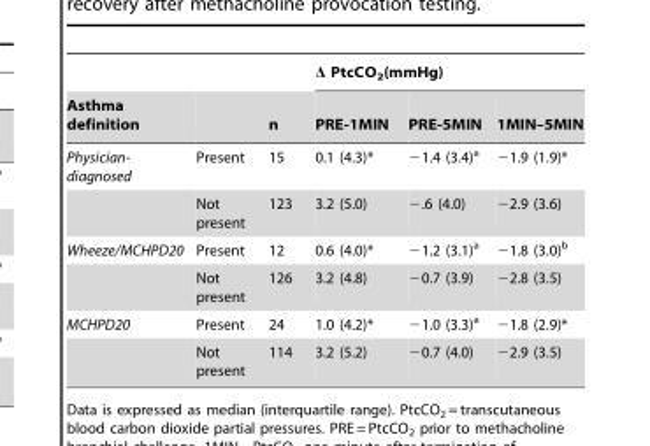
<table><thead><tr><td rowspan="2">Asthma definition</td><td rowspan="2"></td><td rowspan="2">n</td><td colspan="3">Δ PtcCO<sub>2</sub>(mmHg)</td></tr><tr><td>PRE-1MIN</td><td>PRE-5MIN</td><td>1MIN–5MIN</td></tr></thead><tbody><tr><td rowspan="2">Physician- diagnosed</td><td>Present</td><td>15</td><td>0.1 (4.3)*</td><td>−1.4 (3.4)<sup>a</sup></td><td>−1.9 (1.9)*</td></tr><tr><td>Not present</td><td>123</td><td>3.2 (5.0)</td><td>−.6 (4.0)</td><td>−2.9 (3.6)</td></tr><tr><td rowspan="2">Wheeze/MCHPD20</td><td>Present</td><td>12</td><td>0.6 (4.0)*</td><td>−1.2 (3.1)<sup>a</sup></td><td>−1.8 (3.0)<sup>b</sup></td></tr><tr><td>Not present</td><td>126</td><td>3.2 (4.8)</td><td>−0.7 (3.9)</td><td>−2.8 (3.5)</td></tr><tr><td rowspan="2">MCHPD20</td><td>Present</td><td>24</td><td>1.0 (4.2)*</td><td>−1.0 (3.3)<sup>a</sup></td><td>−1.8 (2.9)*</td></tr><tr><td>Not present</td><td>114</td><td>3.2 (5.2)</td><td>−0.7 (4.0)</td><td>−2.9 (3.5)</td></tr></tbody></table>